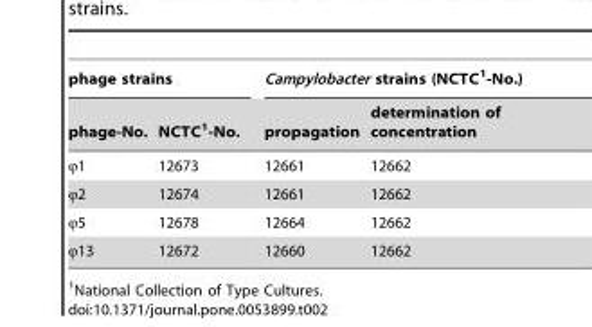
<table><thead><tr><td colspan="2">phage strains</td><td colspan="2">Campylobacter strains (NCTC<sup>1</sup>-No.)</td></tr><tr><td>phage-No.</td><td>NCTC<sup>1</sup>-No.</td><td>propagation</td><td>determination of concentration</td></tr></thead><tbody><tr><td>φ1</td><td>12673</td><td>12661</td><td>12662</td></tr><tr><td>φ2</td><td>12674</td><td>12661</td><td>12662</td></tr><tr><td>φ5</td><td>12678</td><td>12664</td><td>12662</td></tr><tr><td>φ13</td><td>12672</td><td>12660</td><td>12662</td></tr></tbody></table>